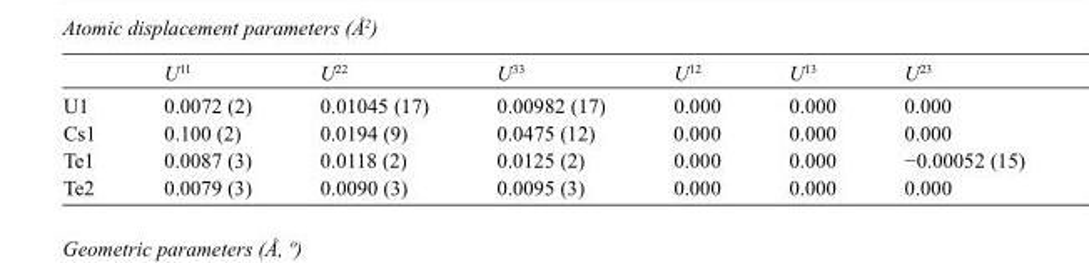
<table><thead><tr><td></td><td>U<sup>11</sup></td><td>U<sup>22</sup></td><td>U<sup>33</sup></td><td>U<sup>12</sup></td><td>U<sup>13</sup></td><td>U<sup>23</sup></td></tr></thead><tbody><tr><td>U1</td><td>0.0072 (2)</td><td>0.01045 (17)</td><td>0.00982 (17)</td><td>0.000</td><td>0.000</td><td>0.000</td></tr><tr><td>Cs1</td><td>0.100 (2)</td><td>0.0194 (9)</td><td>0.0475 (12)</td><td>0.000</td><td>0.000</td><td>0.000</td></tr><tr><td>Te1</td><td>0.0087 (3)</td><td>0.0118 (2)</td><td>0.0125 (2)</td><td>0.000</td><td>0.000</td><td>−0.00052 (15)</td></tr><tr><td>Te2</td><td>0.0079 (3)</td><td>0.0090 (3)</td><td>0.0095 (3)</td><td>0.000</td><td>0.000</td><td>0.000</td></tr></tbody></table>